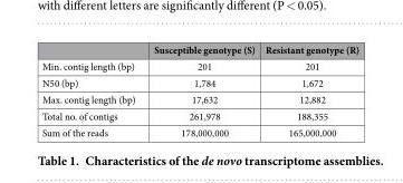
<table><thead><tr><td></td><td>Susceptible genotype (S)</td><td>Resistant genotype (R)</td></tr></thead><tbody><tr><td>Min. contig length (bp)</td><td>201</td><td>201</td></tr><tr><td>N50 (bp)</td><td>1,784</td><td>1,672</td></tr><tr><td>Max. contig length (bp)</td><td>17,632</td><td>12,882</td></tr><tr><td>Total no. of contigs</td><td>261,978</td><td>188,355</td></tr><tr><td>Sum of the reads</td><td>178,000,000</td><td>165,000,000</td></tr></tbody></table>